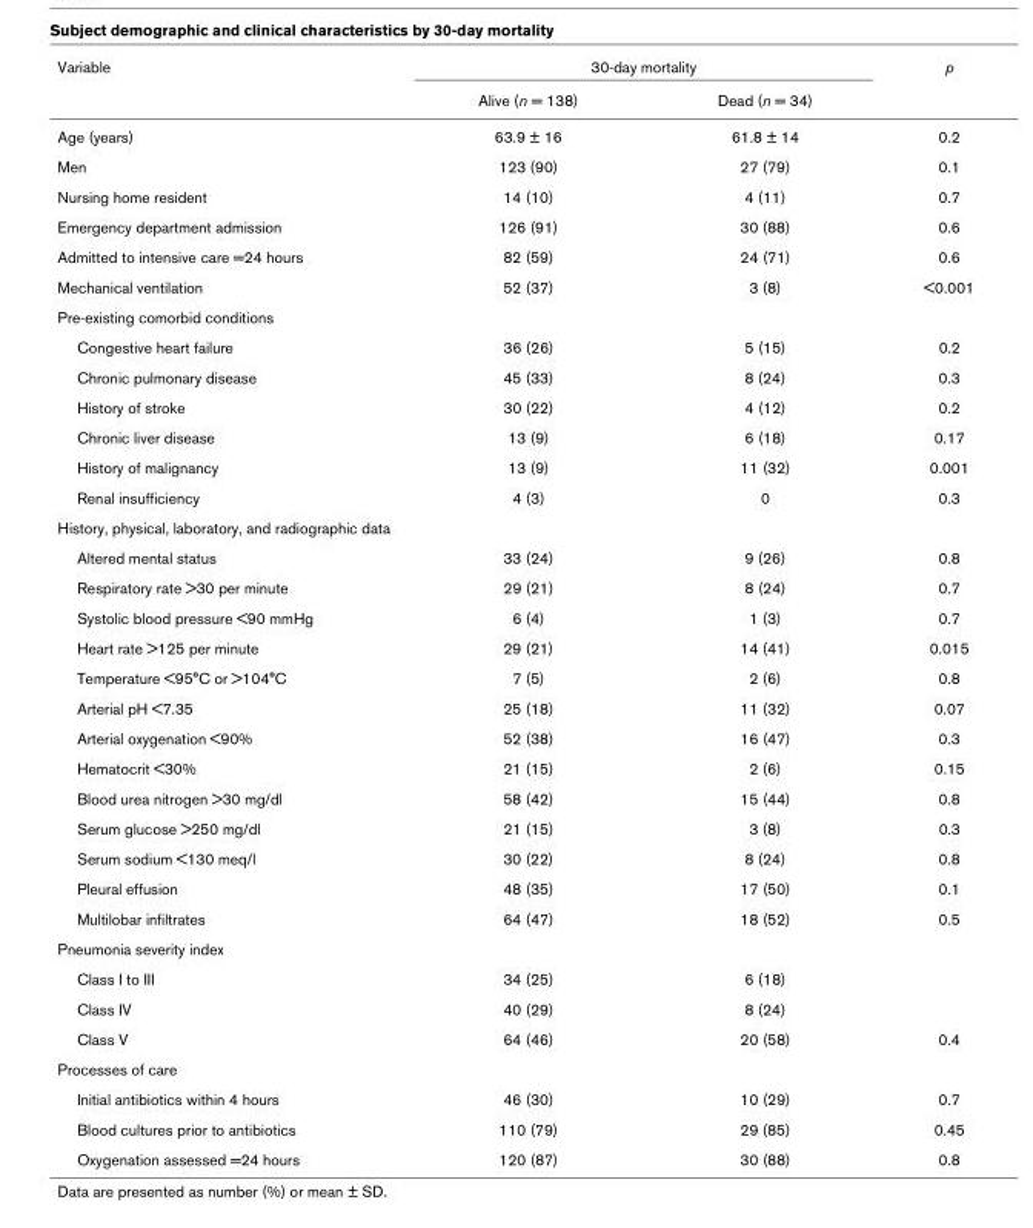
<table><thead><tr><td rowspan="2">Variable</td><td colspan="2">30-day mortality</td><td rowspan="2">p</td></tr><tr><td>Alive (n = 138)</td><td>Dead (n = 34)</td></tr></thead><tbody><tr><td>Age (years)</td><td>63.9 ± 16</td><td>61.8 ± 14</td><td>0.2</td></tr><tr><td>Men</td><td>123 (90)</td><td>27 (79)</td><td>0.1</td></tr><tr><td>Nursing home resident</td><td>14 (10)</td><td>4 (11)</td><td>0.7</td></tr><tr><td>Emergency department admission</td><td>126 (91)</td><td>30 (88)</td><td>0.6</td></tr><tr><td>Admitted to intensive care =24 hours</td><td>82 (59)</td><td>24 (71)</td><td>0.6</td></tr><tr><td>Mechanical ventilation</td><td>52 (37)</td><td>3 (8)</td><td>&lt;0.001</td></tr><tr><td colspan="4">Pre-existing comorbid conditions</td></tr><tr><td>Congestive heart failure</td><td>36 (26)</td><td>5 (15)</td><td>0.2</td></tr><tr><td>Chronic pulmonary disease</td><td>45 (33)</td><td>8 (24)</td><td>0.3</td></tr><tr><td>History of stroke</td><td>30 (22)</td><td>4 (12)</td><td>0.2</td></tr><tr><td>Chronic liver disease</td><td>13 (9)</td><td>6 (18)</td><td>0.17</td></tr><tr><td>History of malignancy</td><td>13 (9)</td><td>11 (32)</td><td>0.001</td></tr><tr><td>Renal insufficiency</td><td>4 (3)</td><td>0</td><td>0.3</td></tr><tr><td colspan="4">History, physical, laboratory, and radiographic data</td></tr><tr><td>Altered mental status</td><td>33 (24)</td><td>9 (26)</td><td>0.8</td></tr><tr><td>Respiratory rate &gt;30 per minute</td><td>29 (21)</td><td>8 (24)</td><td>0.7</td></tr><tr><td>Systolic blood pressure &lt;90 mmHg</td><td>6 (4)</td><td>1 (3)</td><td>0.7</td></tr><tr><td>Heart rate &gt;125 per minute</td><td>29 (21)</td><td>14 (41)</td><td>0.015</td></tr><tr><td>Temperature &lt;95°C or &gt;104°C</td><td>7 (5)</td><td>2 (6)</td><td>0.8</td></tr><tr><td>Arterial pH &lt;7.35</td><td>25 (18)</td><td>11 (32)</td><td>0.07</td></tr><tr><td>Arterial oxygenation &lt;90%</td><td>52 (38)</td><td>16 (47)</td><td>0.3</td></tr><tr><td>Hematocrit &lt;30%</td><td>21 (15)</td><td>2 (6)</td><td>0.15</td></tr><tr><td>Blood urea nitrogen &gt;30 mg/dl</td><td>58 (42)</td><td>15 (44)</td><td>0.8</td></tr><tr><td>Serum glucose &gt;250 mg/dl</td><td>21 (15)</td><td>3 (8)</td><td>0.3</td></tr><tr><td>Serum sodium &lt;130 meq/l</td><td>30 (22)</td><td>8 (24)</td><td>0.8</td></tr><tr><td>Pleural effusion</td><td>48 (35)</td><td>17 (50)</td><td>0.1</td></tr><tr><td>Multilobar infiltrates</td><td>64 (47)</td><td>18 (52)</td><td>0.5</td></tr><tr><td colspan="4">Pneumonia severity index</td></tr><tr><td>Class I to III</td><td>34 (25)</td><td>6 (18)</td><td></td></tr><tr><td>Class IV</td><td>40 (29)</td><td>8 (24)</td><td></td></tr><tr><td>Class V</td><td>64 (46)</td><td>20 (58)</td><td>0.4</td></tr><tr><td colspan="4">Processes of care</td></tr><tr><td>Initial antibiotics within 4 hours</td><td>46 (30)</td><td>10 (29)</td><td>0.7</td></tr><tr><td>Blood cultures prior to antibiotics</td><td>110 (79)</td><td>29 (85)</td><td>0.45</td></tr><tr><td>Oxygenation assessed =24 hours</td><td>120 (87)</td><td>30 (88)</td><td>0.8</td></tr></tbody></table>